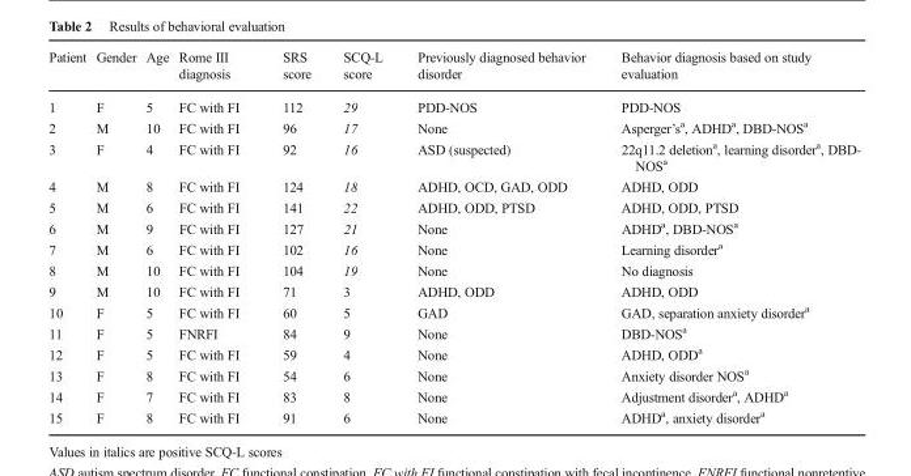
<table><thead><tr><td>Patient</td><td>Gender</td><td>Age</td><td>Rome III diagnosis</td><td>SRS score</td><td>SCQ-L score</td><td>Previously diagnosed behavior disorder</td><td>Behavior diagnosis based on study evaluation</td></tr></thead><tbody><tr><td>1</td><td>F</td><td>5</td><td>FC with FI</td><td>112</td><td>29</td><td>PDD-NOS</td><td>PDD-NOS</td></tr><tr><td>2</td><td>M</td><td>10</td><td>FC with FI</td><td>96</td><td>17</td><td>None</td><td>Asperger’s<sup>a</sup>, ADHD<sup>a</sup>, DBD-NOS<sup>a</sup></td></tr><tr><td>3</td><td>F</td><td>4</td><td>FC with FI</td><td>92</td><td>16</td><td>ASD (suspected)</td><td>22q11.2 deletion<sup>a</sup>, learning disorder<sup>a</sup>, DBD- NOS<sup>a</sup></td></tr><tr><td>4</td><td>M</td><td>8</td><td>FC with FI</td><td>124</td><td>18</td><td>ADHD, OCD, GAD, ODD</td><td>ADHD, ODD</td></tr><tr><td>5</td><td>M</td><td>6</td><td>FC with FI</td><td>141</td><td>22</td><td>ADHD, ODD, PTSD</td><td>ADHD, ODD, PTSD</td></tr><tr><td>6</td><td>M</td><td>9</td><td>FC with FI</td><td>127</td><td>21</td><td>None</td><td>ADHD<sup>a</sup>, DBD-NOS<sup>a</sup></td></tr><tr><td>7</td><td>M</td><td>6</td><td>FC with FI</td><td>102</td><td>16</td><td>None</td><td>Learning disorder<sup>a</sup></td></tr><tr><td>8</td><td>M</td><td>10</td><td>FC with FI</td><td>104</td><td>19</td><td>None</td><td>No diagnosis</td></tr><tr><td>9</td><td>M</td><td>10</td><td>FC with FI</td><td>71</td><td>3</td><td>ADHD, ODD</td><td>ADHD, ODD</td></tr><tr><td>10</td><td>F</td><td>5</td><td>FC with FI</td><td>60</td><td>5</td><td>GAD</td><td>GAD, separation anxiety disorder<sup>a</sup></td></tr><tr><td>11</td><td>F</td><td>5</td><td>FNRFI</td><td>84</td><td>9</td><td>None</td><td>DBD-NOS<sup>a</sup></td></tr><tr><td>12</td><td>F</td><td>5</td><td>FC with FI</td><td>59</td><td>4</td><td>None</td><td>ADHD, ODD<sup>a</sup></td></tr><tr><td>13</td><td>F</td><td>8</td><td>FC with FI</td><td>54</td><td>6</td><td>None</td><td>Anxiety disorder NOS<sup>a</sup></td></tr><tr><td>14</td><td>F</td><td>7</td><td>FC with FI</td><td>83</td><td>8</td><td>None</td><td>Adjustment disorder<sup>a</sup>, ADHD<sup>a</sup></td></tr><tr><td>15</td><td>F</td><td>8</td><td>FC with FI</td><td>91</td><td>6</td><td>None</td><td>ADHD<sup>a</sup>, anxiety disorder<sup>a</sup></td></tr></tbody></table>